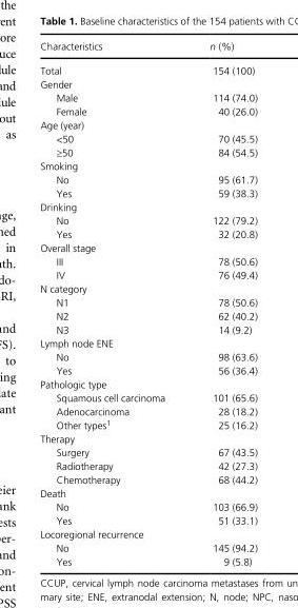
<table><thead><tr><td>Characteristics</td><td>n (%)</td></tr></thead><tbody><tr><td>Total</td><td>154 (100)</td></tr><tr><td colspan="2">Gender</td></tr><tr><td>Male</td><td>114 (74.0)</td></tr><tr><td>Female</td><td>40 (26.0)</td></tr><tr><td colspan="2">Age (year)</td></tr><tr><td>&lt;50</td><td>70 (45.5)</td></tr><tr><td>≥50</td><td>84 (54.5)</td></tr><tr><td colspan="2">Smoking</td></tr><tr><td>No</td><td>95 (61.7)</td></tr><tr><td>Yes</td><td>59 (38.3)</td></tr><tr><td colspan="2">Drinking</td></tr><tr><td>No</td><td>122 (79.2)</td></tr><tr><td>Yes</td><td>32 (20.8)</td></tr><tr><td colspan="2">Overall stage</td></tr><tr><td>III</td><td>78 (50.6)</td></tr><tr><td>IV</td><td>76 (49.4)</td></tr><tr><td colspan="2">N category</td></tr><tr><td>N1</td><td>78 (50.6)</td></tr><tr><td>N2</td><td>62 (40.2)</td></tr><tr><td>N3</td><td>14 (9.2)</td></tr><tr><td colspan="2">Lymph node ENE</td></tr><tr><td>No</td><td>98 (63.6)</td></tr><tr><td>Yes</td><td>56 (36.4)</td></tr><tr><td colspan="2">Pathologic type</td></tr><tr><td>Squamous cell carcinoma</td><td>101 (65.6)</td></tr><tr><td>Adenocarcinoma</td><td>28 (18.2)</td></tr><tr><td>Other types1</td><td>25 (16.2)</td></tr><tr><td colspan="2">Therapy</td></tr><tr><td>Surgery</td><td>67 (43.5)</td></tr><tr><td>Radiotherapy</td><td>42 (27.3)</td></tr><tr><td>Chemotherapy</td><td>68 (44.2)</td></tr><tr><td colspan="2">Death</td></tr><tr><td>No</td><td>103 (66.9)</td></tr><tr><td>Yes</td><td>51 (33.1)</td></tr><tr><td colspan="2">Locoregional recurrence</td></tr><tr><td>No</td><td>145 (94.2)</td></tr><tr><td>Yes</td><td>9 (5.8)</td></tr></tbody></table>